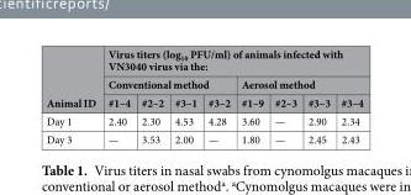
<table><thead><tr><td rowspan="3">Animal ID</td><td colspan="8">Virus titers (log<sub>10</sub> PFU/ml) of animals infected with VN3040 virus via the:</td></tr><tr><td colspan="4">Conventional method</td><td colspan="4">Aerosol method</td></tr><tr><td>#1–4</td><td>#2–2</td><td>#3–1</td><td>#3–2</td><td>#1–9</td><td>#2–3</td><td>#3–3</td><td>#3–4</td></tr></thead><tbody><tr><td>Day 1</td><td>2.40</td><td>2.30</td><td>4.53</td><td>4.28</td><td>3.60</td><td>—</td><td>2.90</td><td>2.34</td></tr><tr><td>Day 3</td><td>—</td><td>3.53</td><td>2.00</td><td>—</td><td>1.80</td><td>—</td><td>2.45</td><td>2.43</td></tr></tbody></table>